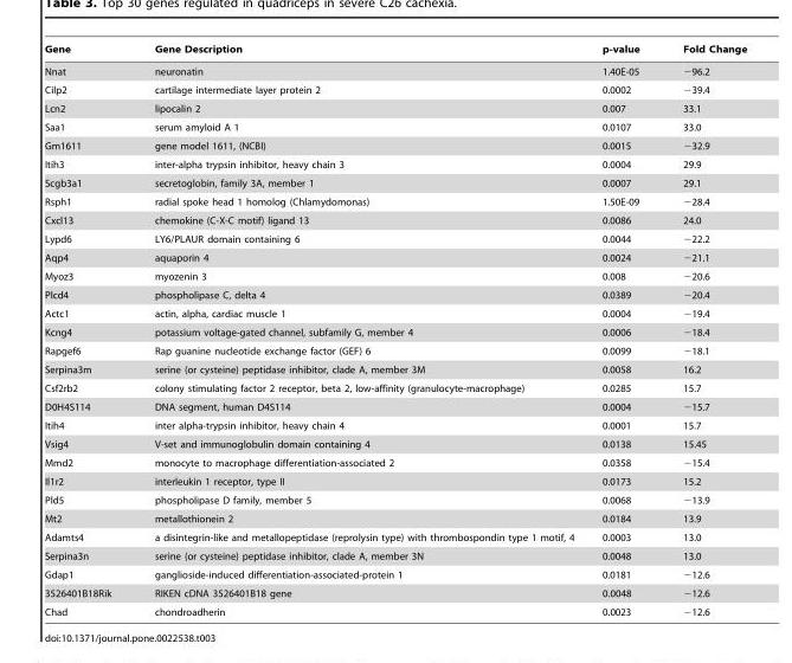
<table><thead><tr><td>Gene</td><td>Gene Description</td><td>p-value</td><td>Fold Change</td></tr></thead><tbody><tr><td>Nnat</td><td>neuronatin</td><td>1.40E-05</td><td>−96.2</td></tr><tr><td>Cilp2</td><td>cartilage intermediate layer protein 2</td><td>0.0002</td><td>−39.4</td></tr><tr><td>Lcn2</td><td>lipocalin 2</td><td>0.007</td><td>33.1</td></tr><tr><td>Saa1</td><td>serum amyloid A 1</td><td>0.0107</td><td>33.0</td></tr><tr><td>Gm1611</td><td>gene model 1611, (NCBI)</td><td>0.0015</td><td>−32.9</td></tr><tr><td>Itih3</td><td>inter-alpha trypsin inhibitor, heavy chain 3</td><td>0.0004</td><td>29.9</td></tr><tr><td>Scgb3a1</td><td>secretoglobin, family 3A, member 1</td><td>0.0007</td><td>29.1</td></tr><tr><td>Rsph1</td><td>radial spoke head 1 homolog (Chlamydomonas)</td><td>1.50E-09</td><td>−28.4</td></tr><tr><td>Cxcl13</td><td>chemokine (C-X-C motif) ligand 13</td><td>0.0086</td><td>24.0</td></tr><tr><td>Lypd6</td><td>LY6/PLAUR domain containing 6</td><td>0.0044</td><td>−22.2</td></tr><tr><td>Aqp4</td><td>aquaporin 4</td><td>0.0024</td><td>−21.1</td></tr><tr><td>Myoz3</td><td>myozenin 3</td><td>0.008</td><td>−20.6</td></tr><tr><td>Plcd4</td><td>phospholipase C, delta 4</td><td>0.0389</td><td>−20.4</td></tr><tr><td>Actc1</td><td>actin, alpha, cardiac muscle 1</td><td>0.0004</td><td>−19.4</td></tr><tr><td>Kcng4</td><td>potassium voltage-gated channel, subfamily G, member 4</td><td>0.0006</td><td>−18.4</td></tr><tr><td>Rapgef6</td><td>Rap guanine nucleotide exchange factor (GEF) 6</td><td>0.0099</td><td>−18.1</td></tr><tr><td>Serpina3m</td><td>serine (or cysteine) peptidase inhibitor, clade A, member 3M</td><td>0.0058</td><td>16.2</td></tr><tr><td>Csf2rb2</td><td>colony stimulating factor 2 receptor, beta 2, low-affinity (granulocyte-macrophage)</td><td>0.0285</td><td>15.7</td></tr><tr><td>D0H4S114</td><td>DNA segment, human D4S114</td><td>0.0004</td><td>−15.7</td></tr><tr><td>Itih4</td><td>inter alpha-trypsin inhibitor, heavy chain 4</td><td>0.0001</td><td>15.7</td></tr><tr><td>Vsig4</td><td>V-set and immunoglobulin domain containing 4</td><td>0.0138</td><td>15.45</td></tr><tr><td>Mmd2</td><td>monocyte to macrophage differentiation-associated 2</td><td>0.0358</td><td>−15.4</td></tr><tr><td>Il1r2</td><td>interleukin 1 receptor, type II</td><td>0.0173</td><td>15.2</td></tr><tr><td>Pld5</td><td>phospholipase D family, member 5</td><td>0.0068</td><td>−13.9</td></tr><tr><td>Mt2</td><td>metallothionein 2</td><td>0.0184</td><td>13.9</td></tr><tr><td>Adamts4</td><td>a disintegrin-like and metallopeptidase (reprolysin type) with thrombospondin type 1 motif, 4</td><td>0.0003</td><td>13.0</td></tr><tr><td>Serpina3n</td><td>serine (or cysteine) peptidase inhibitor, clade A, member 3N</td><td>0.0048</td><td>13.0</td></tr><tr><td>Gdap1</td><td>ganglioside-induced differentiation-associated-protein 1</td><td>0.0181</td><td>−12.6</td></tr><tr><td>3526401B18Rik</td><td>RIKEN cDNA 3526401B18 gene</td><td>0.0048</td><td>−12.6</td></tr><tr><td>Chad</td><td>chondroadherin</td><td>0.0023</td><td>−12.6</td></tr></tbody></table>